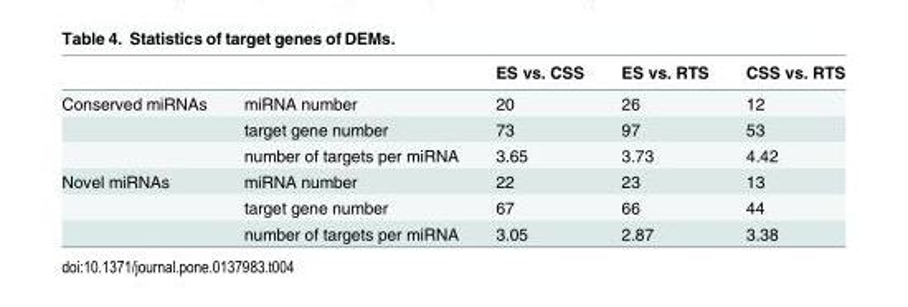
<table><thead><tr><td></td><td></td><td>ES vs. CSS</td><td>ES vs. RTS</td><td>CSS vs. RTS</td></tr></thead><tbody><tr><td rowspan="3">Conserved miRNAs</td><td>miRNA number</td><td>20</td><td>26</td><td>12</td></tr><tr><td>target gene number</td><td>73</td><td>97</td><td>53</td></tr><tr><td>number of targets per miRNA</td><td>3.65</td><td>3.73</td><td>4.42</td></tr><tr><td rowspan="3">Novel miRNAs</td><td>miRNA number</td><td>22</td><td>23</td><td>13</td></tr><tr><td>target gene number</td><td>67</td><td>66</td><td>44</td></tr><tr><td>number of targets per miRNA</td><td>3.05</td><td>2.87</td><td>3.38</td></tr></tbody></table>